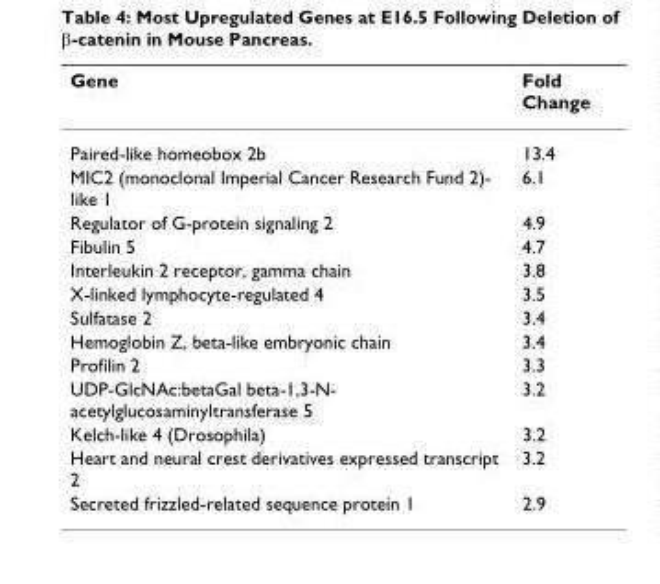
<table><thead><tr><td>Gene</td><td>Fold Change</td></tr></thead><tbody><tr><td>Paired-like homeobox 2b</td><td>13.4</td></tr><tr><td>MIC2 (monoclonal Imperial Cancer Research Fund 2)- like 1</td><td>6.1</td></tr><tr><td>Regulator of G-protein signaling 2</td><td>4.9</td></tr><tr><td>Fibulin 5</td><td>4.7</td></tr><tr><td>Interleukin 2 receptor, gamma chain</td><td>3.8</td></tr><tr><td>X-linked lymphocyte-regulated 4</td><td>3.5</td></tr><tr><td>Sulfatase 2</td><td>3.4</td></tr><tr><td>Hemoglobin Z, beta-like embryonic chain</td><td>3.4</td></tr><tr><td>Profilin 2</td><td>3.3</td></tr><tr><td>UDP-GlcNAc:betaGal beta-1,3-N- acetylglucosaminyltransferase 5</td><td>3.2</td></tr><tr><td>Kelch-like 4 (Drosophila)</td><td>3.2</td></tr><tr><td>Heart and neural crest derivatives expressed transcript 2</td><td>3.2</td></tr><tr><td>Secreted frizzled-related sequence protein 1</td><td>2.9</td></tr></tbody></table>